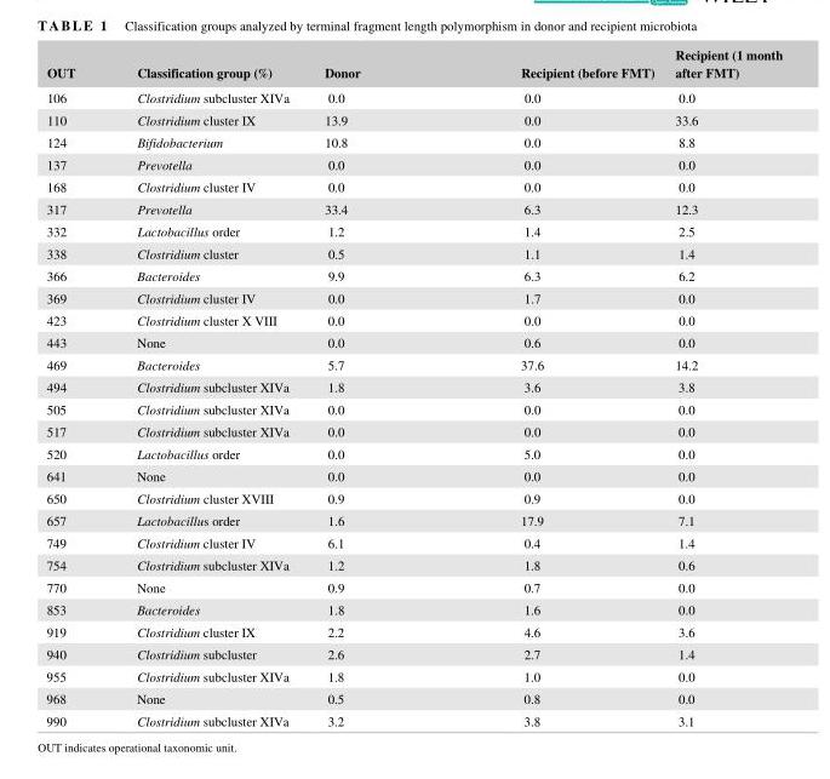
<table><thead><tr><td>OUT</td><td>Classification group (%)</td><td>Donor</td><td>Recipient (before FMT)</td><td>Recipient (1 month after FMT)</td></tr></thead><tbody><tr><td>106</td><td>Clostridium subcluster XIVa</td><td>0.0</td><td>0.0</td><td>0.0</td></tr><tr><td>110</td><td>Clostridium cluster IX</td><td>13.9</td><td>0.0</td><td>33.6</td></tr><tr><td>124</td><td>Bifidobacterium</td><td>10.8</td><td>0.0</td><td>8.8</td></tr><tr><td>137</td><td>Prevotella</td><td>0.0</td><td>0.0</td><td>0.0</td></tr><tr><td>168</td><td>Clostridium cluster IV</td><td>0.0</td><td>0.0</td><td>0.0</td></tr><tr><td>317</td><td>Prevotella</td><td>33.4</td><td>6.3</td><td>12.3</td></tr><tr><td>332</td><td>Lactobacillus order</td><td>1.2</td><td>1.4</td><td>2.5</td></tr><tr><td>338</td><td>Clostridium cluster</td><td>0.5</td><td>1.1</td><td>1.4</td></tr><tr><td>366</td><td>Bacteroides</td><td>9.9</td><td>6.3</td><td>6.2</td></tr><tr><td>369</td><td>Clostridium cluster IV</td><td>0.0</td><td>1.7</td><td>0.0</td></tr><tr><td>423</td><td>Clostridium cluster X VIII</td><td>0.0</td><td>0.0</td><td>0.0</td></tr><tr><td>443</td><td>None</td><td>0.0</td><td>0.6</td><td>0.0</td></tr><tr><td>469</td><td>Bacteroides</td><td>5.7</td><td>37.6</td><td>14.2</td></tr><tr><td>494</td><td>Clostridium subcluster XIVa</td><td>1.8</td><td>3.6</td><td>3.8</td></tr><tr><td>505</td><td>Clostridium subcluster XIVa</td><td>0.0</td><td>0.0</td><td>0.0</td></tr><tr><td>517</td><td>Clostridium subcluster XIVa</td><td>0.0</td><td>0.0</td><td>0.0</td></tr><tr><td>520</td><td>Lactobacillus order</td><td>0.0</td><td>5.0</td><td>0.0</td></tr><tr><td>641</td><td>None</td><td>0.0</td><td>0.0</td><td>0.0</td></tr><tr><td>650</td><td>Clostridium cluster XVIII</td><td>0.9</td><td>0.9</td><td>0.0</td></tr><tr><td>657</td><td>Lactobacillus order</td><td>1.6</td><td>17.9</td><td>7.1</td></tr><tr><td>749</td><td>Clostridium cluster IV</td><td>6.1</td><td>0.4</td><td>1.4</td></tr><tr><td>754</td><td>Clostridium subcluster XIVa</td><td>1.2</td><td>1.8</td><td>0.6</td></tr><tr><td>770</td><td>None</td><td>0.9</td><td>0.7</td><td>0.0</td></tr><tr><td>853</td><td>Bacteroides</td><td>1.8</td><td>1.6</td><td>0.0</td></tr><tr><td>919</td><td>Clostridium cluster IX</td><td>2.2</td><td>4.6</td><td>3.6</td></tr><tr><td>940</td><td>Clostridium subcluster</td><td>2.6</td><td>2.7</td><td>1.4</td></tr><tr><td>955</td><td>Clostridium subcluster XIVa</td><td>1.8</td><td>1.0</td><td>0.0</td></tr><tr><td>968</td><td>None</td><td>0.5</td><td>0.8</td><td>0.0</td></tr><tr><td>990</td><td>Clostridium subcluster XIVa</td><td>3.2</td><td>3.8</td><td>3.1</td></tr></tbody></table>